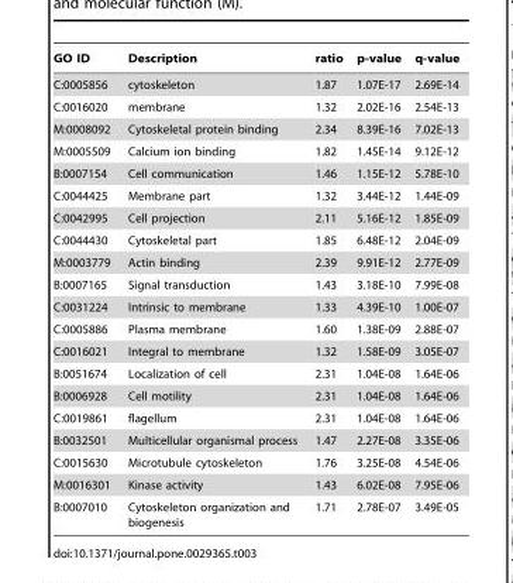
<table><thead><tr><td>GO ID</td><td>Description</td><td>ratio</td><td>p-value</td><td>q-value</td></tr></thead><tbody><tr><td>C:0005856</td><td>cytoskeleton</td><td>1.87</td><td>1.07E-17</td><td>2.69E-14</td></tr><tr><td>C:0016020</td><td>membrane</td><td>1.32</td><td>2.02E-16</td><td>2.54E-13</td></tr><tr><td>M:0008092</td><td>Cytoskeletal protein binding</td><td>2.34</td><td>8.39E-16</td><td>7.02E-13</td></tr><tr><td>M:0005509</td><td>Calcium ion binding</td><td>1.82</td><td>1.45E-14</td><td>9.12E-12</td></tr><tr><td>B:0007154</td><td>Cell communication</td><td>1.46</td><td>1.15E-12</td><td>5.78E-10</td></tr><tr><td>C:0044425</td><td>Membrane part</td><td>1.32</td><td>3.44E-12</td><td>1.44E-09</td></tr><tr><td>C:0042995</td><td>Cell projection</td><td>2.11</td><td>5.16E-12</td><td>1.85E-09</td></tr><tr><td>C:0044430</td><td>Cytoskeletal part</td><td>1.85</td><td>6.48E-12</td><td>2.04E-09</td></tr><tr><td>M:0003779</td><td>Actin binding</td><td>2.39</td><td>9.91E-12</td><td>2.77E-09</td></tr><tr><td>B:0007165</td><td>Signal transduction</td><td>1.43</td><td>3.18E-10</td><td>7.99E-08</td></tr><tr><td>C:0031224</td><td>Intrinsic to membrane</td><td>1.33</td><td>4.39E-10</td><td>1.00E-07</td></tr><tr><td>C:0005886</td><td>Plasma membrane</td><td>1.60</td><td>1.38E-09</td><td>2.88E-07</td></tr><tr><td>C:0016021</td><td>Integral to membrane</td><td>1.32</td><td>1.58E-09</td><td>3.05E-07</td></tr><tr><td>B:0051674</td><td>Localization of cell</td><td>2.31</td><td>1.04E-08</td><td>1.64E-06</td></tr><tr><td>B:0006928</td><td>Cell motility</td><td>2.31</td><td>1.04E-08</td><td>1.64E-06</td></tr><tr><td>C:0019861</td><td>flagellum</td><td>2.31</td><td>1.04E-08</td><td>1.64E-06</td></tr><tr><td>B:0032501</td><td>Multicellular organismal process</td><td>1.47</td><td>2.27E-08</td><td>3.35E-06</td></tr><tr><td>C:0015630</td><td>Microtubule cytoskeleton</td><td>1.76</td><td>3.25E-08</td><td>4.54E-06</td></tr><tr><td>M:0016301</td><td>Kinase activity</td><td>1.43</td><td>6.02E-08</td><td>7.95E-06</td></tr><tr><td>B:0007010</td><td>Cytoskeleton organization and biogenesis</td><td>1.71</td><td>2.78E-07</td><td>3.49E-05</td></tr></tbody></table>